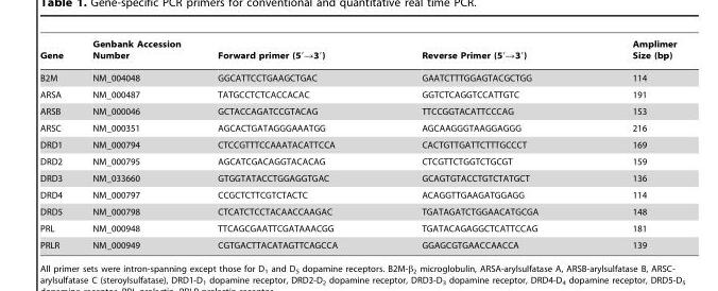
<table><thead><tr><td>Gene</td><td>Genbank Accession Number</td><td>Forward primer (5′→3′)</td><td>Reverse Primer (5′→3′)</td><td>Amplimer Size (bp)</td></tr></thead><tbody><tr><td>B2M</td><td>NM_004048</td><td>GGCATTCCTGAAGCTGAC</td><td>GAATCTTTGGAGTACGCTGG</td><td>114</td></tr><tr><td>ARSA</td><td>NM_000487</td><td>TATGCCTCTCACCACAC</td><td>GGTCTCAGGTCCATTGTC</td><td>191</td></tr><tr><td>ARSB</td><td>NM_000046</td><td>GCTACCAGATCCGTACAG</td><td>TTCCGGTACATTCCCAG</td><td>153</td></tr><tr><td>ARSC</td><td>NM_000351</td><td>AGCACTGATAGGGAAATGG</td><td>AGCAAGGGTAAGGAGGG</td><td>216</td></tr><tr><td>DRD1</td><td>NM_000794</td><td>CTCCGTTTCCAAATACATTCCA</td><td>CACTGTTGATTCTTTGCCCT</td><td>169</td></tr><tr><td>DRD2</td><td>NM_000795</td><td>AGCATCGACAGGTACACAG</td><td>CTCGTTCTGGTCTGCGT</td><td>159</td></tr><tr><td>DRD3</td><td>NM_033660</td><td>GTGGTATACCTGGAGGTGAC</td><td>GCAGTGTACCTGTCTATGCT</td><td>136</td></tr><tr><td>DRD4</td><td>NM_000797</td><td>CCGCTCTTCGTCTACTC</td><td>ACAGGTTGAAGATGGAGG</td><td>114</td></tr><tr><td>DRD5</td><td>NM_000798</td><td>CTCATCTCCTACAACCAAGAC</td><td>TGATAGATCTGGAACATGCGA</td><td>148</td></tr><tr><td>PRL</td><td>NM_000948</td><td>TTCAGCGAATTCGATAAACGG</td><td>TGATACAGAGGCTCATTCCAG</td><td>181</td></tr><tr><td>PRLR</td><td>NM_000949</td><td>CGTGACTTACATAGTTCAGCCA</td><td>GGAGCGTGAACCAACCA</td><td>139</td></tr></tbody></table>